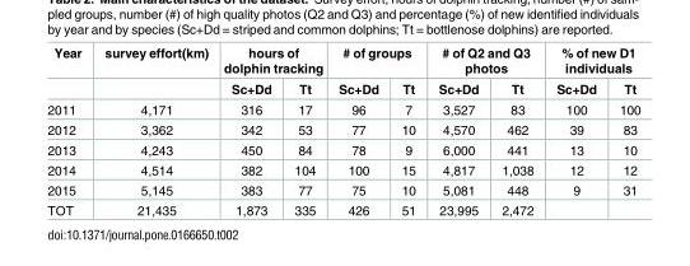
<table><thead><tr><td rowspan="2">Year</td><td rowspan="2">survey effort(km)</td><td colspan="2">hours of dolphin tracking</td><td colspan="2"># of groups</td><td colspan="2"># of Q2 and Q3 photos</td><td colspan="2">% of new D1 individuals</td></tr><tr><td>Sc+Dd</td><td>Tt</td><td>Sc+Dd</td><td>Tt</td><td>Sc+Dd</td><td>Tt</td><td>Sc+Dd</td><td>Tt</td></tr></thead><tbody><tr><td>2011</td><td>4,171</td><td>316</td><td>17</td><td>96</td><td>7</td><td>3,527</td><td>83</td><td>100</td><td>100</td></tr><tr><td>2012</td><td>3,362</td><td>342</td><td>53</td><td>77</td><td>10</td><td>4,570</td><td>462</td><td>39</td><td>83</td></tr><tr><td>2013</td><td>4,243</td><td>450</td><td>84</td><td>78</td><td>9</td><td>6,000</td><td>441</td><td>13</td><td>10</td></tr><tr><td>2014</td><td>4,514</td><td>382</td><td>104</td><td>100</td><td>15</td><td>4,817</td><td>1,038</td><td>12</td><td>12</td></tr><tr><td>2015</td><td>5,145</td><td>383</td><td>77</td><td>75</td><td>10</td><td>5,081</td><td>448</td><td>9</td><td>31</td></tr><tr><td>TOT</td><td>21,435</td><td>1,873</td><td>335</td><td>426</td><td>51</td><td>23,995</td><td>2,472</td><td></td><td></td></tr></tbody></table>